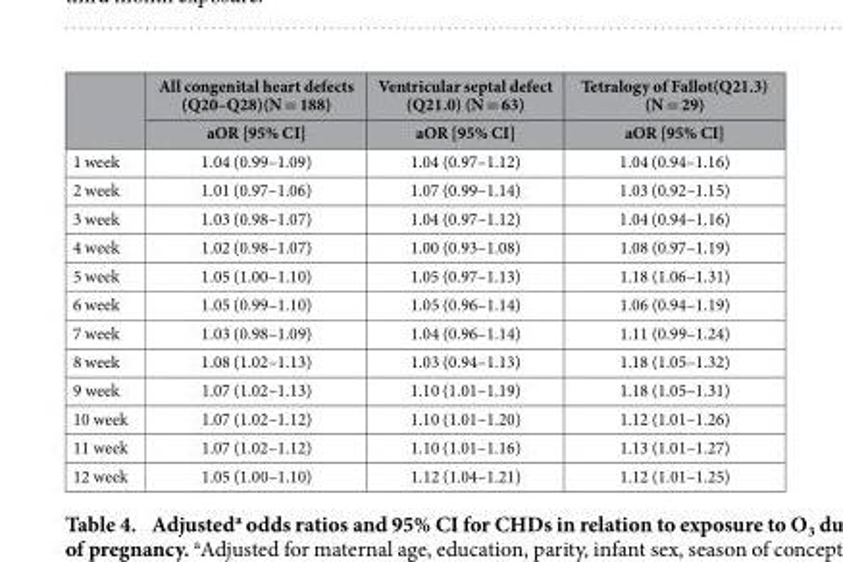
<table><thead><tr><td rowspan="2"></td><td rowspan="2">All congenital heart defects (Q20–Q28)(N = 188) aOR [95% CI]</td><td rowspan="2">Ventricular septal defect (Q21.0) (N = 63) aOR [95% CI]</td><td rowspan="2">Tetralogy of Fallot(Q21.3) (N = 29) aOR [95% CI]</td></tr><tr></tr></thead><tbody><tr><td>1 week</td><td>1.04 (0.99–1.09)</td><td>1.04 (0.97–1.12)</td><td>1.04 (0.94–1.16)</td></tr><tr><td>2 week</td><td>1.01 (0.97–1.06)</td><td>1.07 (0.99–1.14)</td><td>1.03 (0.92–1.15)</td></tr><tr><td>3 week</td><td>1.03 (0.98–1.07)</td><td>1.04 (0.97–1.12)</td><td>1.04 (0.94–1.16)</td></tr><tr><td>4 week</td><td>1.02 (0.98–1.07)</td><td>1.00 (0.93–1.08)</td><td>1.08 (0.97–1.19)</td></tr><tr><td>5 week</td><td>1.05 (1.00–1.10)</td><td>1.05 (0.97–1.13)</td><td>1.18 (1.06–1.31)</td></tr><tr><td>6 week</td><td>1.05 (0.99–1.10)</td><td>1.05 (0.96–1.14)</td><td>1.06 (0.94–1.19)</td></tr><tr><td>7 week</td><td>1.03 (0.98–1.09)</td><td>1.04 (0.96–1.14)</td><td>1.11 (0.99–1.24)</td></tr><tr><td>8 week</td><td>1.08 (1.02–1.13)</td><td>1.03 (0.94–1.13)</td><td>1.18 (1.05–1.32)</td></tr><tr><td>9 week</td><td>1.07 (1.02–1.13)</td><td>1.10 (1.01–1.19)</td><td>1.18 (1.05–1.31)</td></tr><tr><td>10 week</td><td>1.07 (1.02–1.12)</td><td>1.10 (1.01–1.20)</td><td>1.12 (1.01–1.26)</td></tr><tr><td>11 week</td><td>1.07 (1.02–1.12)</td><td>1.10 (1.01–1.16)</td><td>1.13 (1.01–1.27)</td></tr><tr><td>12 week</td><td>1.05 (1.00–1.10)</td><td>1.12 (1.04–1.21)</td><td>1.12 (1.01–1.25)</td></tr></tbody></table>